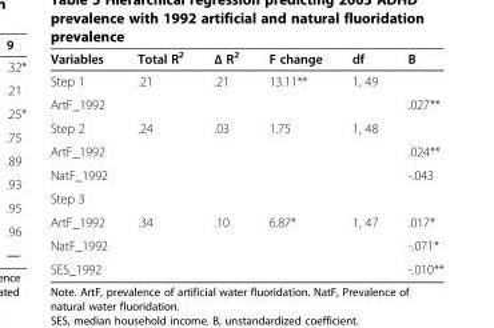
<table><thead><tr><td>Variables</td><td>Total R<sup>2</sup></td><td>Δ R2</td><td>F change</td><td>df</td><td>B</td></tr></thead><tbody><tr><td>Step 1</td><td>.21</td><td>.21</td><td>13.11**</td><td>1, 49</td><td></td></tr><tr><td>ArtF_1992</td><td></td><td></td><td></td><td></td><td>.027**</td></tr><tr><td>Step 2</td><td>.24</td><td>.03</td><td>1.75</td><td>1, 48</td><td></td></tr><tr><td>ArtF_1992</td><td></td><td></td><td></td><td></td><td>.024**</td></tr><tr><td>NatF_1992</td><td></td><td></td><td></td><td></td><td>-.043</td></tr><tr><td colspan="6">Step 3</td></tr><tr><td>ArtF_1992</td><td>.34</td><td>.10</td><td>6.87*</td><td>1, 47</td><td>.017*</td></tr><tr><td>NatF_1992</td><td></td><td></td><td></td><td></td><td>-.071*</td></tr><tr><td>SES_1992</td><td></td><td></td><td></td><td></td><td>-.010**</td></tr></tbody></table>